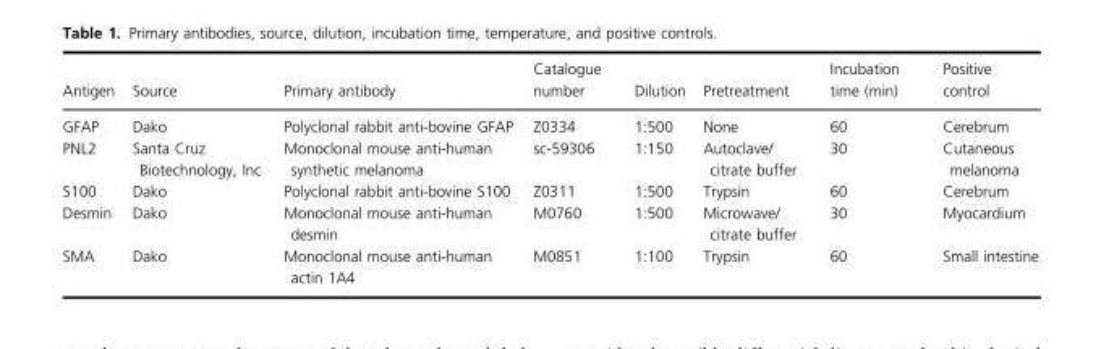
<table><thead><tr><td>Antigen</td><td>Source</td><td>Primary antibody</td><td>Catalogue number</td><td>Dilution</td><td>Pretreatment</td><td>Incubation time (min)</td><td>Positive control</td></tr></thead><tbody><tr><td>GFAP</td><td>Dako</td><td>Polyclonal rabbit anti-bovine GFAP</td><td>Z0334</td><td>1:500</td><td>None</td><td>60</td><td>Cerebrum</td></tr><tr><td>PNL2</td><td>Santa Cruz Biotechnology, Inc</td><td>Monoclonal mouse anti-human synthetic melanoma</td><td>sc-59306</td><td>1:150</td><td>Autoclave/ citrate buffer</td><td>30</td><td>Cutaneous melanoma</td></tr><tr><td>S100</td><td>Dako</td><td>Polyclonal rabbit anti-bovine S100</td><td>Z0311</td><td>1:500</td><td>Trypsin</td><td>60</td><td>Cerebrum</td></tr><tr><td>Desmin</td><td>Dako</td><td>Monoclonal mouse anti-human desmin</td><td>M0760</td><td>1:500</td><td>Microwave/ citrate buffer</td><td>30</td><td>Myocardium</td></tr><tr><td>SMA</td><td>Dako</td><td>Monoclonal mouse anti-human actin 1A4</td><td>M0851</td><td>1:100</td><td>Trypsin</td><td>60</td><td>Small intestine</td></tr></tbody></table>